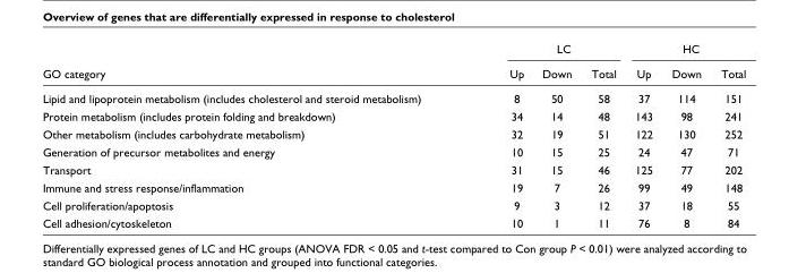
<table><thead><tr><td rowspan="2">GO category</td><td colspan="3">LC</td><td colspan="3">HC</td></tr><tr><td>Up</td><td>Down</td><td>Total</td><td>Up</td><td>Down</td><td>Total</td></tr></thead><tbody><tr><td>Lipid and lipoprotein metabolism (includes cholesterol and steroid metabolism)</td><td>8</td><td>50</td><td>58</td><td>37</td><td>114</td><td>151</td></tr><tr><td>Protein metabolism (includes protein folding and breakdown)</td><td>34</td><td>14</td><td>48</td><td>143</td><td>98</td><td>241</td></tr><tr><td>Other metabolism (includes carbohydrate metabolism)</td><td>32</td><td>19</td><td>51</td><td>122</td><td>130</td><td>252</td></tr><tr><td>Generation of precursor metabolites and energy</td><td>10</td><td>15</td><td>25</td><td>24</td><td>47</td><td>71</td></tr><tr><td>Transport</td><td>31</td><td>15</td><td>46</td><td>125</td><td>77</td><td>202</td></tr><tr><td>Immune and stress response/inflammation</td><td>19</td><td>7</td><td>26</td><td>99</td><td>49</td><td>148</td></tr><tr><td>Cell proliferation/apoptosis</td><td>9</td><td>3</td><td>12</td><td>37</td><td>18</td><td>55</td></tr><tr><td>Cell adhesion/cytoskeleton</td><td>10</td><td>1</td><td>11</td><td>76</td><td>8</td><td>84</td></tr></tbody></table>